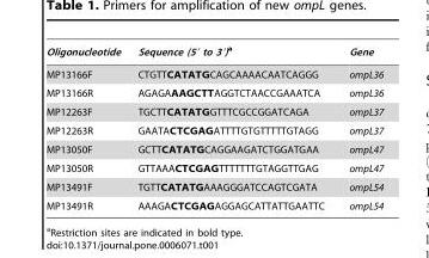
<table><thead><tr><td>Oligonucleotide</td><td>Sequence (5′ to 3′)a</td><td>Gene</td></tr></thead><tbody><tr><td>MP13166F</td><td>CTGTTCATATGCAGCAAAACAATCAGGG</td><td>ompL36</td></tr><tr><td>MP13166R</td><td>AGAGAAAGCTTAGGTCTAACCGAAATCA</td><td>ompL36</td></tr><tr><td>MP12263F</td><td>TGCTTCATATGGTTTCGCCGGATCAGA</td><td>ompL37</td></tr><tr><td>MP12263R</td><td>GAATACTCGAGATTTTGTGTTTTTGTAGG</td><td>ompL37</td></tr><tr><td>MP13050F</td><td>GCTTCATATGCAGGAAGATCTGGATGAA</td><td>ompL47</td></tr><tr><td>MP13050R</td><td>GTTAAACTCGAGTTTTTTTGTAGGTTGAG</td><td>ompL47</td></tr><tr><td>MP13491F</td><td>TGTTCATATGAAAGGGATCCAGTCGATA</td><td>ompL54</td></tr><tr><td>MP13491R</td><td>AAAGACTCGAGAGGAGCATTATTGAATTC</td><td>ompL54</td></tr></tbody></table>